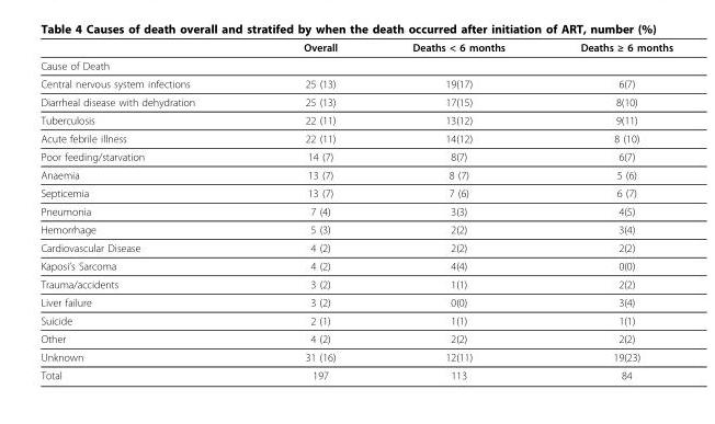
<table><thead><tr><td></td><td>Overall</td><td>Deaths &lt; 6 months</td><td>Deaths ≥ 6 months</td></tr></thead><tbody><tr><td colspan="4">Cause of Death</td></tr><tr><td>Central nervous system infections</td><td>25 (13)</td><td>19(17)</td><td>6(7)</td></tr><tr><td>Diarrheal disease with dehydration</td><td>25 (13)</td><td>17(15)</td><td>8(10)</td></tr><tr><td>Tuberculosis</td><td>22 (11)</td><td>13(12)</td><td>9(11)</td></tr><tr><td>Acute febrile illness</td><td>22 (11)</td><td>14(12)</td><td>8 (10)</td></tr><tr><td>Poor feeding/starvation</td><td>14 (7)</td><td>8(7)</td><td>6(7)</td></tr><tr><td>Anaemia</td><td>13 (7)</td><td>8 (7)</td><td>5 (6)</td></tr><tr><td>Septicemia</td><td>13 (7)</td><td>7 (6)</td><td>6 (7)</td></tr><tr><td>Pneumonia</td><td>7 (4)</td><td>3(3)</td><td>4(5)</td></tr><tr><td>Hemorrhage</td><td>5 (3)</td><td>2(2)</td><td>3(4)</td></tr><tr><td>Cardiovascular Disease</td><td>4 (2)</td><td>2(2)</td><td>2(2)</td></tr><tr><td>Kaposi’s Sarcoma</td><td>4 (2)</td><td>4(4)</td><td>0(0)</td></tr><tr><td>Trauma/accidents</td><td>3 (2)</td><td>1(1)</td><td>2(2)</td></tr><tr><td>Liver failure</td><td>3 (2)</td><td>0(0)</td><td>3(4)</td></tr><tr><td>Suicide</td><td>2 (1)</td><td>1(1)</td><td>1(1)</td></tr><tr><td>Other</td><td>4 (2)</td><td>2(2)</td><td>2(2)</td></tr><tr><td>Unknown</td><td>31 (16)</td><td>12(11)</td><td>19(23)</td></tr><tr><td>Total</td><td>197</td><td>113</td><td>84</td></tr></tbody></table>